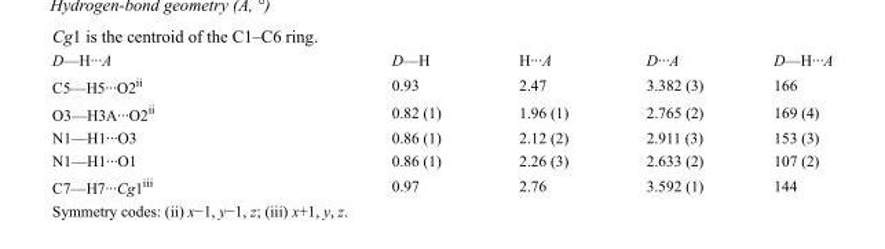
<table><tbody><tr><td>D—H···A</td><td>D—H</td><td>H···A</td><td>D···A</td><td>D—H···A</td></tr><tr><td>C5—H5···O2<sup>ii</sup></td><td>0.93</td><td>2.47</td><td>3.382 (3)</td><td>166</td></tr><tr><td>O3—H3A···O2<sup>ii</sup></td><td>0.82 (1)</td><td>1.96 (1)</td><td>2.765 (2)</td><td>169 (4)</td></tr><tr><td>N1—H1···O3</td><td>0.86 (1)</td><td>2.12 (2)</td><td>2.911 (3)</td><td>153 (3)</td></tr><tr><td>N1—H1···O1</td><td>0.86 (1)</td><td>2.26 (3)</td><td>2.633 (2)</td><td>107 (2)</td></tr><tr><td>C7—H7···Cg1<sup>iii</sup></td><td>0.97</td><td>2.76</td><td>3.592 (1)</td><td>144</td></tr></tbody></table>